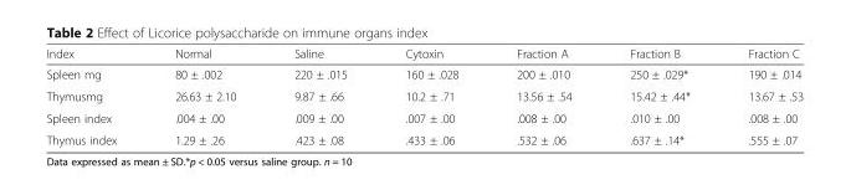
<table><thead><tr><td>Index</td><td>Normal</td><td>Saline</td><td>Cytoxin</td><td>Fraction A</td><td>Fraction B</td><td>Fraction C</td></tr></thead><tbody><tr><td>Spleen mg</td><td>80 ± .002</td><td>220 ± .015</td><td>160 ± .028</td><td>200 ± .010</td><td>250 ± .029*</td><td>190 ± .014</td></tr><tr><td>Thymusmg</td><td>26.63 ± 2.10</td><td>9.87 ± .66</td><td>10.2 ± .71</td><td>13.56 ± .54</td><td>15.42 ± .44*</td><td>13.67 ± .53</td></tr><tr><td>Spleen index</td><td>.004 ± .00</td><td>.009 ± .00</td><td>.007 ± .00</td><td>.008 ± .00</td><td>.010 ± .00</td><td>.008 ± .00</td></tr><tr><td>Thymus index</td><td>1.29 ± .26</td><td>.423 ± .08</td><td>.433 ± .06</td><td>.532 ± .06</td><td>.637 ± .14*</td><td>.555 ± .07</td></tr></tbody></table>